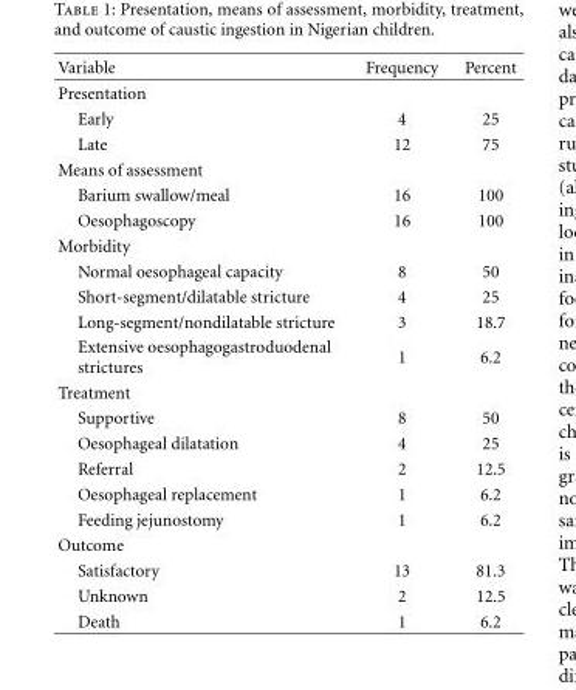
<table><thead><tr><td>Variable</td><td>Frequency</td><td>Percent</td></tr></thead><tbody><tr><td colspan="3">Presentation</td></tr><tr><td>Early</td><td>4</td><td>25</td></tr><tr><td>Late</td><td>12</td><td>75</td></tr><tr><td colspan="3">Means of assessment</td></tr><tr><td>Barium swallow/meal</td><td>16</td><td>100</td></tr><tr><td>Oesophagoscopy</td><td>16</td><td>100</td></tr><tr><td colspan="3">Morbidity</td></tr><tr><td>Normal oesophageal capacity</td><td>8</td><td>50</td></tr><tr><td>Short-segment/dilatable stricture</td><td>4</td><td>25</td></tr><tr><td>Long-segment/nondilatable stricture</td><td>3</td><td>18.7</td></tr><tr><td>Extensive oesophagogastroduodenal strictures</td><td>1</td><td>6.2</td></tr><tr><td colspan="3">Treatment</td></tr><tr><td>Supportive</td><td>8</td><td>50</td></tr><tr><td>Oesophageal dilatation</td><td>4</td><td>25</td></tr><tr><td>Referral</td><td>2</td><td>12.5</td></tr><tr><td>Oesophageal replacement</td><td>1</td><td>6.2</td></tr><tr><td>Feeding jejunostomy</td><td>1</td><td>6.2</td></tr><tr><td colspan="3">Outcome</td></tr><tr><td>Satisfactory</td><td>13</td><td>81.3</td></tr><tr><td>Unknown</td><td>2</td><td>12.5</td></tr><tr><td>Death</td><td>1</td><td>6.2</td></tr></tbody></table>